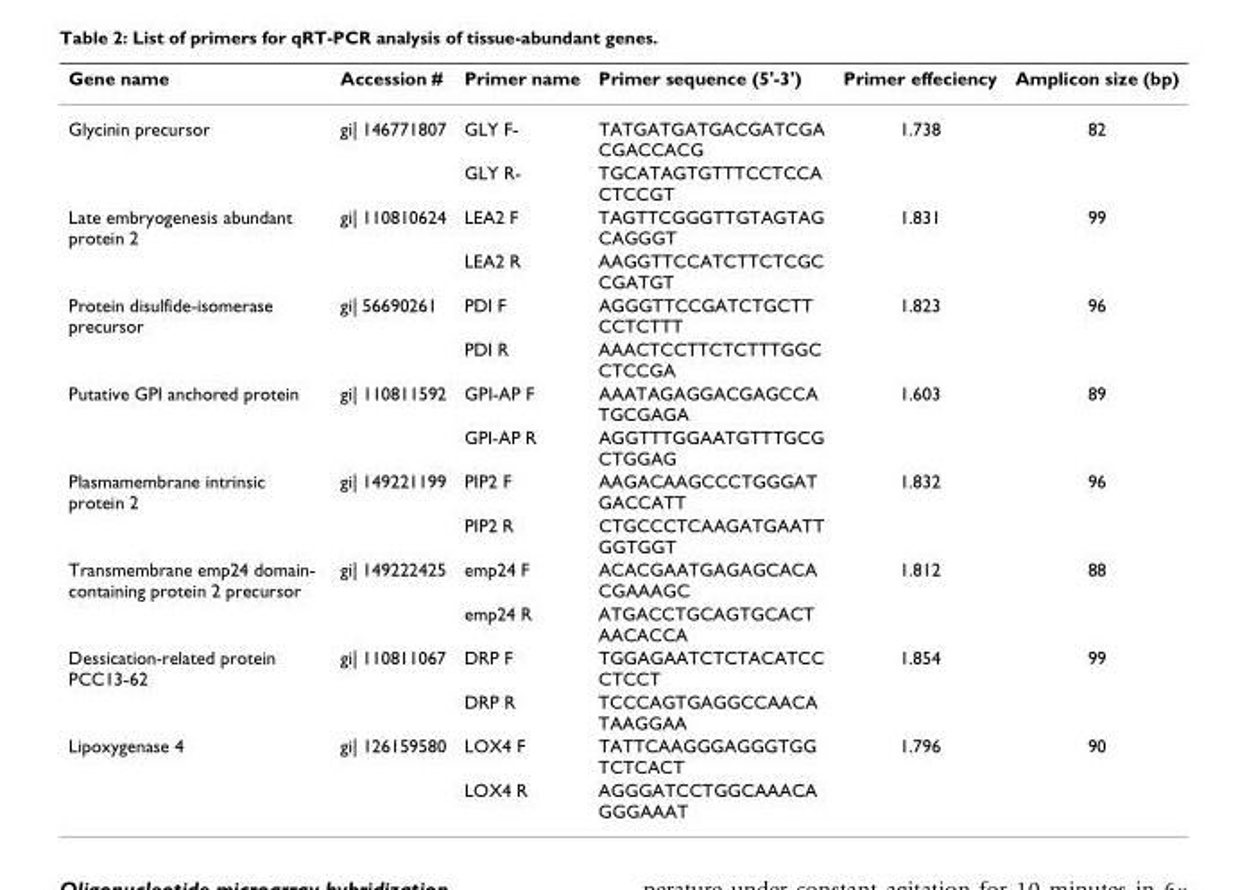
<table><thead><tr><td>Gene name</td><td>Accession #</td><td>Primer name</td><td>Primer sequence (5&#x27;-3&#x27;)</td><td>Primer effeciency</td><td>Amplicon size (bp)</td></tr></thead><tbody><tr><td rowspan="2">Glycinin precursor</td><td>gi| 146771807</td><td>GLY F-</td><td>TATGATGATGACGATCGA CGACCACG</td><td>1.738</td><td>82</td></tr><tr><td></td><td>GLY R-</td><td>TGCATAGTGTTTCCTCCA CTCCGT</td><td></td><td></td></tr><tr><td rowspan="2">Late embryogenesis abundant protein 2</td><td>gi| 110810624</td><td>LEA2 F</td><td>TAGTTCGGGTTGTAGTAG CAGGGT</td><td>1.831</td><td>99</td></tr><tr><td></td><td>LEA2 R</td><td>AAGGTTCCATCTTCTCGC CGATGT</td><td></td><td></td></tr><tr><td rowspan="2">Protein disulfide-isomerase precursor</td><td>gi| 56690261</td><td>PDI F</td><td>AGGGTTCCGATCTGCTT CCTCTTT</td><td>1.823</td><td>96</td></tr><tr><td></td><td>PDI R</td><td>AAACTCCTTCTCTTTGGC CTCCGA</td><td></td><td></td></tr><tr><td rowspan="2">Putative GPI anchored protein</td><td>gi| 110811592</td><td>GPI-AP F</td><td>AAATAGAGGACGAGCCA TGCGAGA</td><td>1.603</td><td>89</td></tr><tr><td></td><td>GPI-AP R</td><td>AGGTTTGGAATGTTTGCG CTGGAG</td><td></td><td></td></tr><tr><td rowspan="2">Plasmamembrane intrinsic protein 2</td><td>gi| 149221199</td><td>PIP2 F</td><td>AAGACAAGCCCTGGGAT GACCATT</td><td>1.832</td><td>96</td></tr><tr><td></td><td>PIP2 R</td><td>CTGCCCTCAAGATGAATT GGTGGT</td><td></td><td></td></tr><tr><td rowspan="2">Transmembrane emp24 domain- containing protein 2 precursor</td><td>gi| 149222425</td><td>emp24 F</td><td>ACACGAATGAGAGCACA CGAAAGC</td><td>1.812</td><td>88</td></tr><tr><td></td><td>emp24 R</td><td>ATGACCTGCAGTGCACT AACACCA</td><td></td><td></td></tr><tr><td rowspan="2">Dessication-related protein PCC13-62</td><td>gi| 110811067</td><td>DRP F</td><td>TGGAGAATCTCTACATCC CTCCT</td><td>1.854</td><td>99</td></tr><tr><td></td><td>DRP R</td><td>TCCCAGTGAGGCCAACA TAAGGAA</td><td></td><td></td></tr><tr><td rowspan="2">Lipoxygenase 4</td><td>gi| 126159580</td><td>LOX4 F</td><td>TATTCAAGGGAGGGTGG TCTCACT</td><td>1.796</td><td>90</td></tr><tr><td></td><td>LOX4 R</td><td>AGGGATCCTGGCAAACA GGGAAAT</td><td></td><td></td></tr></tbody></table>